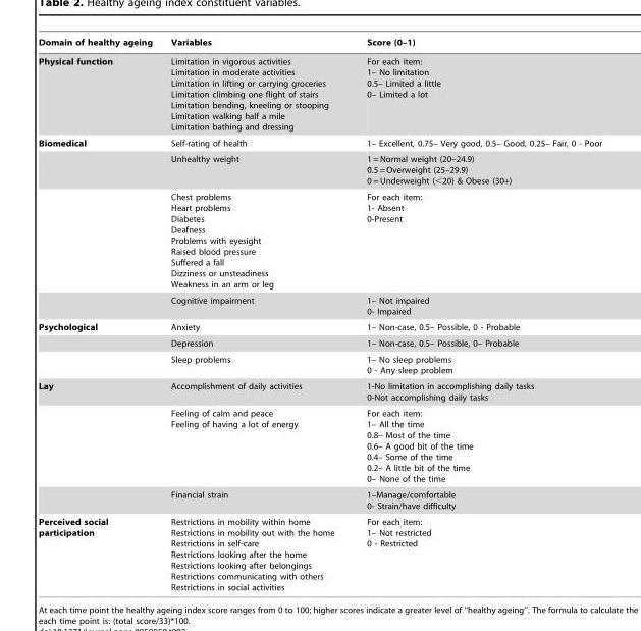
<table><thead><tr><td>Domain of healthy ageing</td><td>Variables</td><td>Score (0–1)</td></tr></thead><tbody><tr><td>Physical function</td><td>Limitation in vigorous activities Limitation in moderate activities Limitation in lifting or carrying groceries Limitation climbing one flight of stairs Limitation bending, kneeling or stooping Limitation walking half a mile Limitation bathing and dressing</td><td>For each item: 1– No limitation 0.5– Limited a little 0– Limited a lot</td></tr><tr><td rowspan="4">Biomedical</td><td>Self-rating of health</td><td>1– Excellent, 0.75– Very good, 0.5– Good, 0.25– Fair, 0 - Poor</td></tr><tr><td>Unhealthy weight</td><td>1 = Normal weight (20–24.9) 0.5 = Overweight (25–29.9) 0 = Underweight (&lt;20) &amp; Obese (30+)</td></tr><tr><td>Chest problems Heart problems Diabetes Deafness Problems with eyesight Raised blood pressure Suffered a fall Dizziness or unsteadiness Weakness in an arm or leg</td><td>For each item: 1- Absent 0-Present</td></tr><tr><td>Cognitive impairment</td><td>1– Not impaired 0- Impaired</td></tr><tr><td rowspan="3">Psychological</td><td>Anxiety</td><td>1– Non-case, 0.5– Possible, 0 - Probable</td></tr><tr><td>Depression</td><td>1– Non-case, 0.5– Possible, 0– Probable</td></tr><tr><td>Sleep problems</td><td>1– No sleep problems 0 - Any sleep problem</td></tr><tr><td rowspan="3">Lay</td><td>Accomplishment of daily activities</td><td>1-No limitation in accomplishing daily tasks 0-Not accomplishing daily tasks</td></tr><tr><td>Feeling of calm and peace Feeling of having a lot of energy</td><td>For each item: 1– All the time 0.8– Most of the time 0.6– A good bit of the time 0.4– Some of the time 0.2– A little bit of the time 0– None of the time</td></tr><tr><td>Financial strain</td><td>1–Manage/comfortable 0- Strain/have difficulty</td></tr><tr><td>Perceived social participation</td><td>Restrictions in mobility within home Restrictions in mobility out with the home Restrictions in self-care Restrictions looking after the home Restrictions looking after belongings Restrictions communicating with others Restrictions in social activities</td><td>For each item: 1– Not restricted 0 - Restricted</td></tr></tbody></table>